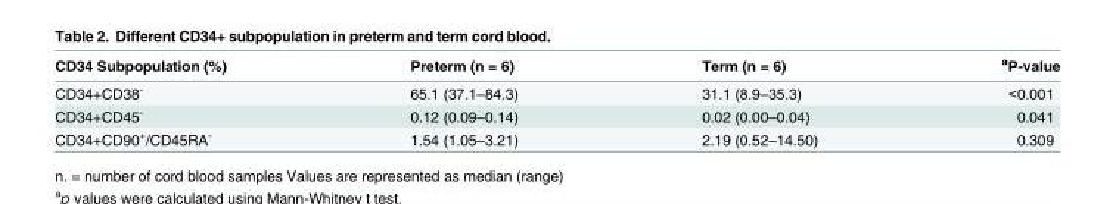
<table><thead><tr><td>CD34 Subpopulation (%)</td><td>Preterm (n = 6)</td><td>Term (n = 6)</td><td><sup>a</sup>P-value</td></tr></thead><tbody><tr><td>CD34+CD38<sup>-</sup></td><td>65.1 (37.1–84.3)</td><td>31.1 (8.9–35.3)</td><td>&lt;0.001</td></tr><tr><td>CD34+CD45<sup>-</sup></td><td>0.12 (0.09–0.14)</td><td>0.02 (0.00–0.04)</td><td>0.041</td></tr><tr><td>CD34+CD90<sup>+</sup>/CD45RA<sup>-</sup></td><td>1.54 (1.05–3.21)</td><td>2.19 (0.52–14.50)</td><td>0.309</td></tr></tbody></table>